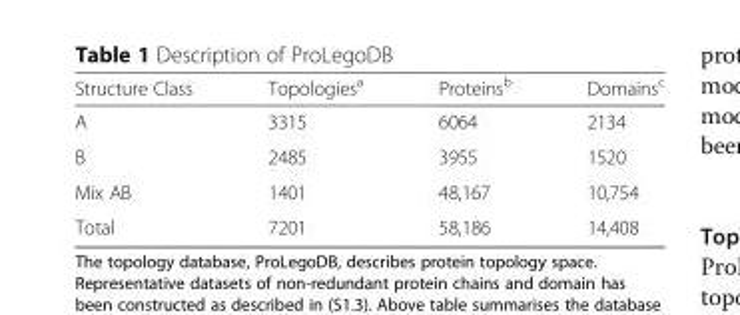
<table><thead><tr><td>Structure Class</td><td>Topologies<sup>a</sup></td><td>Proteins<sup>b</sup></td><td>Domains<sup>c</sup></td></tr></thead><tbody><tr><td>A</td><td>3315</td><td>6064</td><td>2134</td></tr><tr><td>B</td><td>2485</td><td>3955</td><td>1520</td></tr><tr><td>Mix AB</td><td>1401</td><td>48,167</td><td>10,754</td></tr><tr><td>Total</td><td>7201</td><td>58,186</td><td>14,408</td></tr></tbody></table>